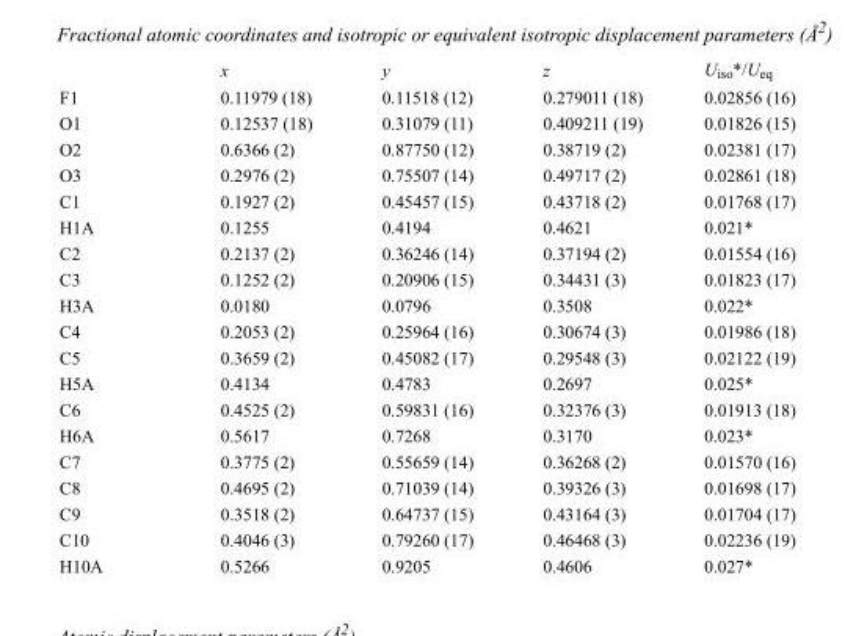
<table><thead><tr><td></td><td>x</td><td>y</td><td>z</td><td>U<sub>iso</sub>*/U<sub>eq</sub></td></tr></thead><tbody><tr><td>F1</td><td>0.11979 (18)</td><td>0.11518 (12)</td><td>0.279011 (18)</td><td>0.02856 (16)</td></tr><tr><td>O1</td><td>0.12537 (18)</td><td>0.31079 (11)</td><td>0.409211 (19)</td><td>0.01826 (15)</td></tr><tr><td>O2</td><td>0.6366 (2)</td><td>0.87750 (12)</td><td>0.38719 (2)</td><td>0.02381 (17)</td></tr><tr><td>O3</td><td>0.2976 (2)</td><td>0.75507 (14)</td><td>0.49717 (2)</td><td>0.02861 (18)</td></tr><tr><td>C1</td><td>0.1927 (2)</td><td>0.45457 (15)</td><td>0.43718 (2)</td><td>0.01768 (17)</td></tr><tr><td>H1A</td><td>0.1255</td><td>0.4194</td><td>0.4621</td><td>0.021*</td></tr><tr><td>C2</td><td>0.2137 (2)</td><td>0.36246 (14)</td><td>0.37194 (2)</td><td>0.01554 (16)</td></tr><tr><td>C3</td><td>0.1252 (2)</td><td>0.20906 (15)</td><td>0.34431 (3)</td><td>0.01823 (17)</td></tr><tr><td>H3A</td><td>0.0180</td><td>0.0796</td><td>0.3508</td><td>0.022*</td></tr><tr><td>C4</td><td>0.2053 (2)</td><td>0.25964 (16)</td><td>0.30674 (3)</td><td>0.01986 (18)</td></tr><tr><td>C5</td><td>0.3659 (2)</td><td>0.45082 (17)</td><td>0.29548 (3)</td><td>0.02122 (19)</td></tr><tr><td>H5A</td><td>0.4134</td><td>0.4783</td><td>0.2697</td><td>0.025*</td></tr><tr><td>C6</td><td>0.4525 (2)</td><td>0.59831 (16)</td><td>0.32376 (3)</td><td>0.01913 (18)</td></tr><tr><td>H6A</td><td>0.5617</td><td>0.7268</td><td>0.3170</td><td>0.023*</td></tr><tr><td>C7</td><td>0.3775 (2)</td><td>0.55659 (14)</td><td>0.36268 (2)</td><td>0.01570 (16)</td></tr><tr><td>C8</td><td>0.4695 (2)</td><td>0.71039 (14)</td><td>0.39326 (3)</td><td>0.01698 (17)</td></tr><tr><td>C9</td><td>0.3518 (2)</td><td>0.64737 (15)</td><td>0.43164 (3)</td><td>0.01704 (17)</td></tr><tr><td>C10</td><td>0.4046 (3)</td><td>0.79260 (17)</td><td>0.46468 (3)</td><td>0.02236 (19)</td></tr><tr><td>H10A</td><td>0.5266</td><td>0.9205</td><td>0.4606</td><td>0.027*</td></tr></tbody></table>